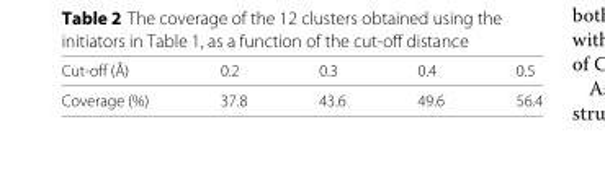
<table><thead><tr><td>Cut-off (Å)</td><td>0.2</td><td>0.3</td><td>0.4</td><td>0.5</td></tr></thead><tbody><tr><td>Coverage (%)</td><td>37.8</td><td>43.6</td><td>49.6</td><td>56.4</td></tr></tbody></table>